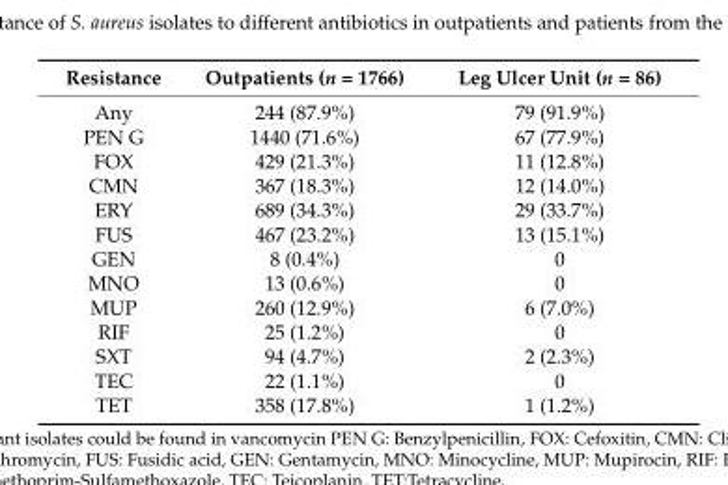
<table><thead><tr><td>Resistance</td><td>Outpatients (n = 1766)</td><td>Leg Ulcer Unit (n = 86)</td></tr></thead><tbody><tr><td>Any</td><td>244 (87.9%)</td><td>79 (91.9%)</td></tr><tr><td>PEN G</td><td>1440 (71.6%)</td><td>67 (77.9%)</td></tr><tr><td>FOX</td><td>429 (21.3%)</td><td>11 (12.8%)</td></tr><tr><td>CMN</td><td>367 (18.3%)</td><td>12 (14.0%)</td></tr><tr><td>ERY</td><td>689 (34.3%)</td><td>29 (33.7%)</td></tr><tr><td>FUS</td><td>467 (23.2%)</td><td>13 (15.1%)</td></tr><tr><td>GEN</td><td>8 (0.4%)</td><td>0</td></tr><tr><td>MNO</td><td>13 (0.6%)</td><td>0</td></tr><tr><td>MUP</td><td>260 (12.9%)</td><td>6 (7.0%)</td></tr><tr><td>RIF</td><td>25 (1.2%)</td><td>0</td></tr><tr><td>SXT</td><td>94 (4.7%)</td><td>2 (2.3%)</td></tr><tr><td>TEC</td><td>22 (1.1%)</td><td>0</td></tr><tr><td>TET</td><td>358 (17.8%)</td><td>1 (1.2%)</td></tr></tbody></table>